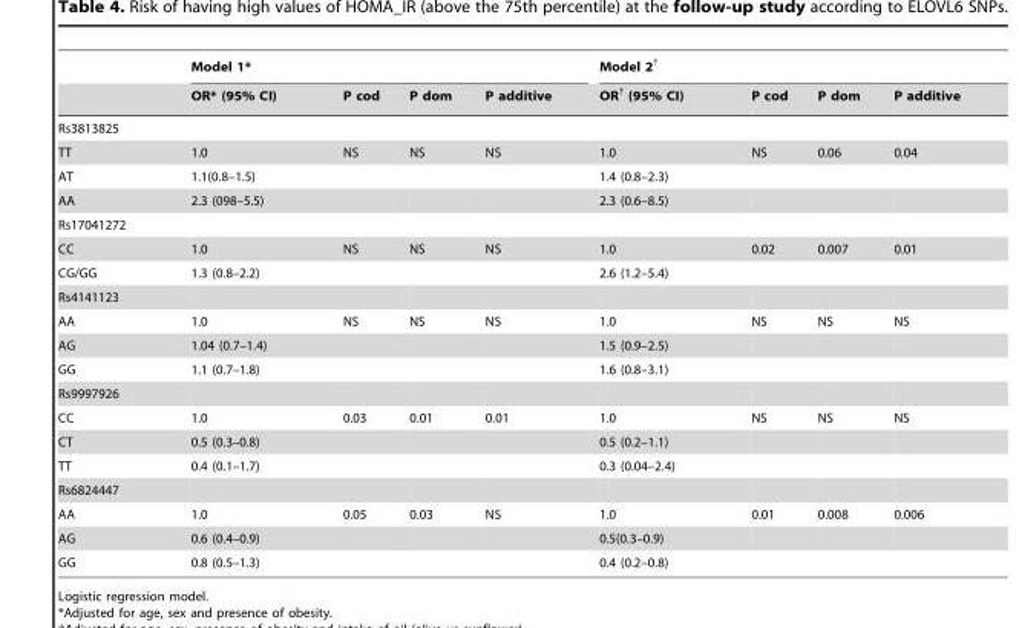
<table><thead><tr><td rowspan="2"></td><td colspan="4">Model 1*</td><td colspan="4">Model 2†</td></tr><tr><td>OR* (95% CI)</td><td>P cod</td><td>P dom</td><td>P additive</td><td>OR† (95% CI)</td><td>P cod</td><td>P dom</td><td>P additive</td></tr></thead><tbody><tr><td colspan="9">Rs3813825</td></tr><tr><td>TT</td><td>1.0</td><td>NS</td><td>NS</td><td>NS</td><td>1.0</td><td>NS</td><td>0.06</td><td>0.04</td></tr><tr><td>AT</td><td>1.1(0.8–1.5)</td><td></td><td></td><td></td><td>1.4 (0.8–2.3)</td><td></td><td></td><td></td></tr><tr><td>AA</td><td>2.3 (098–5.5)</td><td></td><td></td><td></td><td>2.3 (0.6–8.5)</td><td></td><td></td><td></td></tr><tr><td colspan="9">Rs17041272</td></tr><tr><td>CC</td><td>1.0</td><td>NS</td><td>NS</td><td>NS</td><td>1.0</td><td>0.02</td><td>0.007</td><td>0.01</td></tr><tr><td>CG/GG</td><td>1.3 (0.8–2.2)</td><td></td><td></td><td></td><td>2.6 (1.2–5.4)</td><td></td><td></td><td></td></tr><tr><td colspan="9">Rs4141123</td></tr><tr><td>AA</td><td>1.0</td><td>NS</td><td>NS</td><td>NS</td><td>1.0</td><td>NS</td><td>NS</td><td>NS</td></tr><tr><td>AG</td><td>1.04 (0.7–1.4)</td><td></td><td></td><td></td><td>1.5 (0.9–2.5)</td><td></td><td></td><td></td></tr><tr><td>GG</td><td>1.1 (0.7–1.8)</td><td></td><td></td><td></td><td>1.6 (0.8–3.1)</td><td></td><td></td><td></td></tr><tr><td colspan="9">Rs9997926</td></tr><tr><td>CC</td><td>1.0</td><td>0.03</td><td>0.01</td><td>0.01</td><td>1.0</td><td>NS</td><td>NS</td><td>NS</td></tr><tr><td>CT</td><td>0.5 (0.3–0.8)</td><td></td><td></td><td></td><td>0.5 (0.2–1.1)</td><td></td><td></td><td></td></tr><tr><td>TT</td><td>0.4 (0.1–1.7)</td><td></td><td></td><td></td><td>0.3 (0.04–2.4)</td><td></td><td></td><td></td></tr><tr><td colspan="9">Rs6824447</td></tr><tr><td>AA</td><td>1.0</td><td>0.05</td><td>0.03</td><td>NS</td><td>1.0</td><td>0.01</td><td>0.008</td><td>0.006</td></tr><tr><td>AG</td><td>0.6 (0.4–0.9)</td><td></td><td></td><td></td><td>0.5(0.3–0.9)</td><td></td><td></td><td></td></tr><tr><td>GG</td><td>0.8 (0.5–1.3)</td><td></td><td></td><td></td><td>0.4 (0.2–0.8)</td><td></td><td></td><td></td></tr></tbody></table>